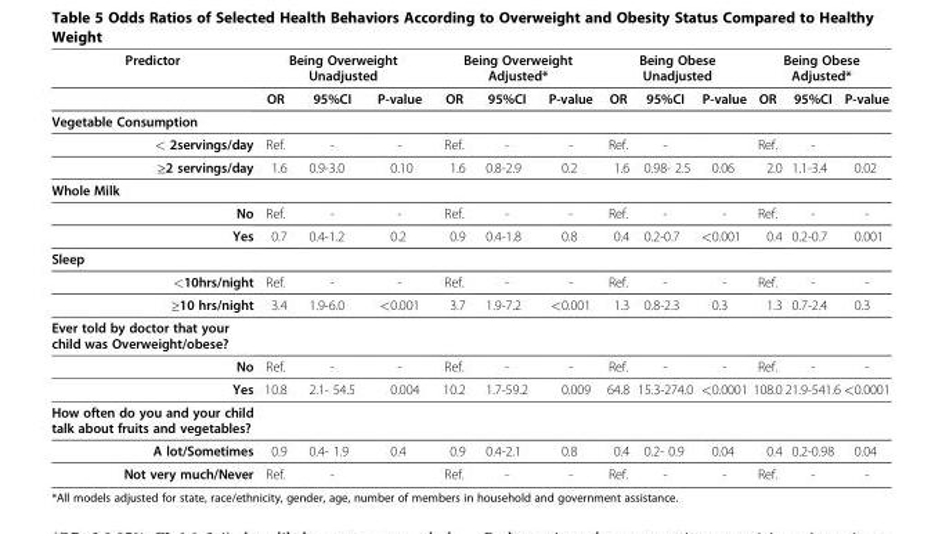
<table><thead><tr><td rowspan="2">Predictor</td><td colspan="3">Being Overweight Unadjusted</td><td colspan="3">Being Overweight Adjusted*</td><td colspan="3">Being Obese Unadjusted</td><td colspan="3">Being Obese Adjusted*</td></tr><tr><td>OR</td><td>95%CI</td><td>P-value</td><td>OR</td><td>95%CI</td><td>P-value</td><td>OR</td><td>95%CI</td><td>P-value</td><td>OR</td><td>95%CI</td><td>P-value</td></tr></thead><tbody><tr><td colspan="13">Vegetable Consumption</td></tr><tr><td>&lt; 2servings/day</td><td>Ref.</td><td>-</td><td>-</td><td>Ref.</td><td>-</td><td>-</td><td>Ref.</td><td>-</td><td></td><td>Ref.</td><td>-</td><td></td></tr><tr><td>≥2 servings/day</td><td>1.6</td><td>0.9-3.0</td><td>0.10</td><td>1.6</td><td>0.8-2.9</td><td>0.2</td><td>1.6</td><td>0.98- 2.5</td><td>0.06</td><td>2.0</td><td>1.1-3.4</td><td>0.02</td></tr><tr><td colspan="13">Whole Milk</td></tr><tr><td>No</td><td>Ref.</td><td>-</td><td>-</td><td>Ref.</td><td>-</td><td>-</td><td>Ref.</td><td>-</td><td>-</td><td>Ref.</td><td>-</td><td>-</td></tr><tr><td>Yes</td><td>0.7</td><td>0.4-1.2</td><td>0.2</td><td>0.9</td><td>0.4-1.8</td><td>0.8</td><td>0.4</td><td>0.2-0.7</td><td>&lt;0.001</td><td>0.4</td><td>0.2-0.7</td><td>0.001</td></tr><tr><td colspan="13">Sleep</td></tr><tr><td>&lt;10hrs/night</td><td>Ref.</td><td>-</td><td>-</td><td>Ref.</td><td>-</td><td>-</td><td>Ref.</td><td>-</td><td>-</td><td>Ref.</td><td>-</td><td>-</td></tr><tr><td>≥10 hrs/night</td><td>3.4</td><td>1.9-6.0</td><td>&lt;0.001</td><td>3.7</td><td>1.9-7.2</td><td>&lt;0.001</td><td>1.3</td><td>0.8-2.3</td><td>0.3</td><td>1.3</td><td>0.7-2.4</td><td>0.3</td></tr><tr><td colspan="13">Ever told by doctor that your child was Overweight/obese?</td></tr><tr><td>No</td><td>Ref.</td><td>-</td><td>-</td><td>Ref.</td><td>-</td><td>-</td><td>Ref.</td><td>-</td><td>-</td><td>Ref.</td><td>-</td><td>-</td></tr><tr><td>Yes</td><td>10.8</td><td>2.1- 54.5</td><td>0.004</td><td>10.2</td><td>1.7-59.2</td><td>0.009</td><td>64.8</td><td>15.3-274.0</td><td>&lt;0.0001</td><td>108.0</td><td>21.9-541.6</td><td>&lt;0.0001</td></tr><tr><td colspan="13">How often do you and your child talk about fruits and vegetables?</td></tr><tr><td>A lot/Sometimes</td><td>0.9</td><td>0.4- 1.9</td><td>0.4</td><td>0.9</td><td>0.4-2.1</td><td>0.8</td><td>0.4</td><td>0.2- 0.9</td><td>0.04</td><td>0.4</td><td>0.2-0.98</td><td>0.04</td></tr><tr><td>Not very much/Never</td><td>Ref.</td><td>-</td><td></td><td>Ref.</td><td>-</td><td>-</td><td>Ref.</td><td>-</td><td>-</td><td>Ref.</td><td>-</td><td>-</td></tr></tbody></table>